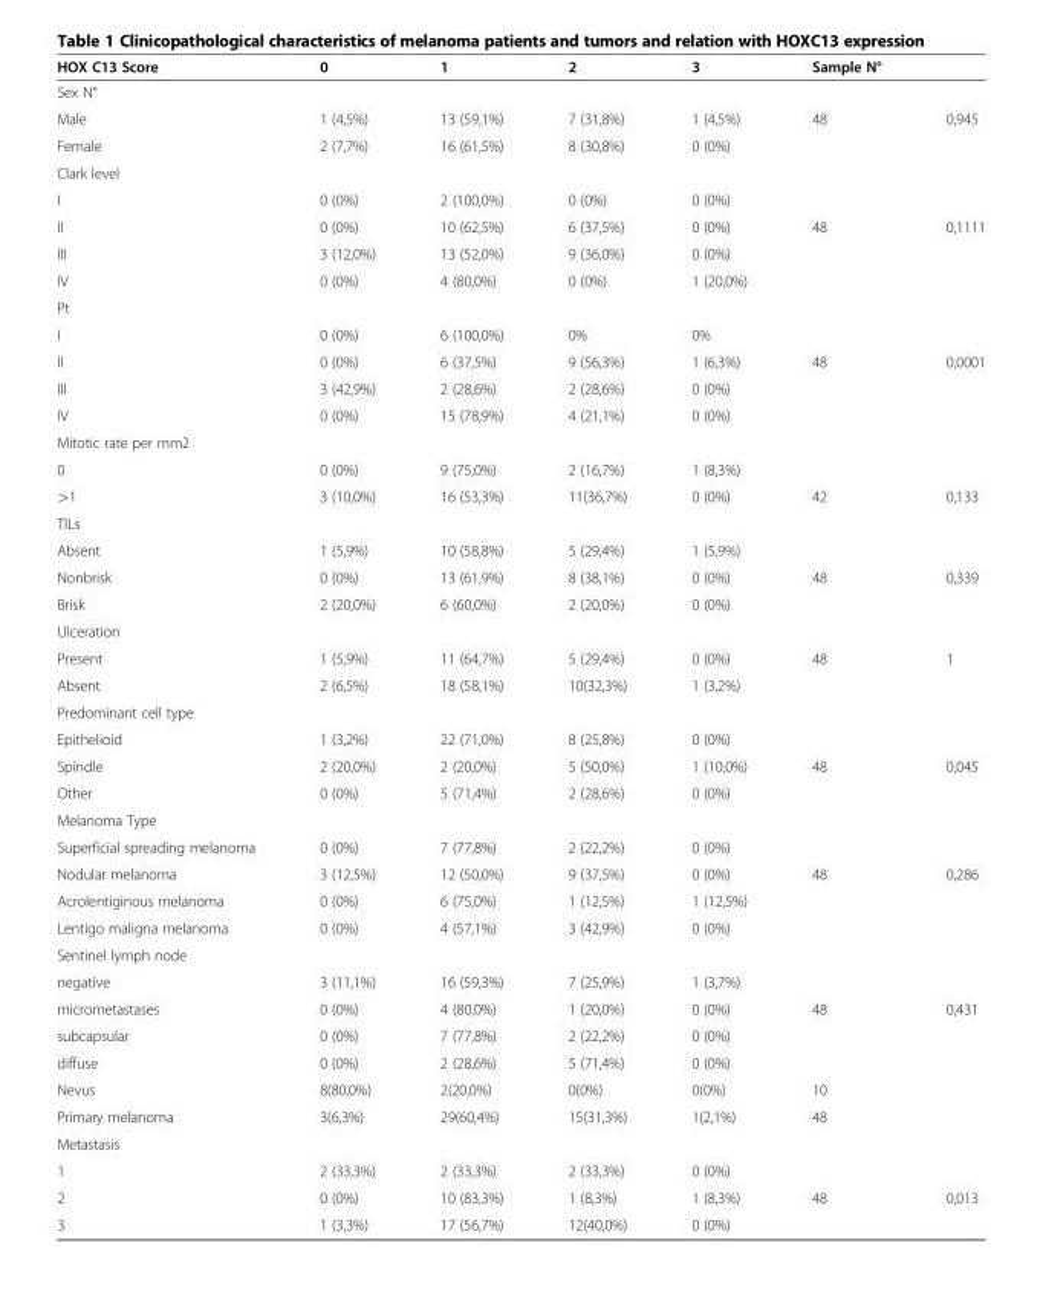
<table><thead><tr><td>HOX C13 Score</td><td>0</td><td>1</td><td>2</td><td>3</td><td>Sample N°</td><td></td></tr></thead><tbody><tr><td colspan="7">Sex N°</td></tr><tr><td>Male</td><td>1 (4,5%)</td><td>13 (59,1%)</td><td>7 (31,8%)</td><td>1 (4,5%)</td><td>48</td><td>0,945</td></tr><tr><td>Female</td><td>2 (7,7%)</td><td>16 (61,5%)</td><td>8 (30,8%)</td><td>0 (0%)</td><td></td><td></td></tr><tr><td colspan="7">Clark level</td></tr><tr><td>I</td><td>0 (0%)</td><td>2 (100,0%)</td><td>0 (0%)</td><td>0 (0%)</td><td></td><td></td></tr><tr><td>II</td><td>0 (0%)</td><td>10 (62,5%)</td><td>6 (37,5%)</td><td>0 (0%)</td><td>48</td><td>0,1111</td></tr><tr><td>III</td><td>3 (12,0%)</td><td>13 (52,0%)</td><td>9 (36,0%)</td><td>0 (0%)</td><td></td><td></td></tr><tr><td>IV</td><td>0 (0%)</td><td>4 (80,0%)</td><td>0 (0%)</td><td>1 (20,0%)</td><td></td><td></td></tr><tr><td colspan="7">Pt</td></tr><tr><td>I</td><td>0 (0%)</td><td>6 (100,0%)</td><td>0%</td><td>0%</td><td></td><td></td></tr><tr><td>II</td><td>0 (0%)</td><td>6 (37,5%)</td><td>9 (56,3%)</td><td>1 (6,3%)</td><td>48</td><td>0,0001</td></tr><tr><td>III</td><td>3 (42,9%)</td><td>2 (28,6%)</td><td>2 (28,6%)</td><td>0 (0%)</td><td></td><td></td></tr><tr><td>IV</td><td>0 (0%)</td><td>15 (78,9%)</td><td>4 (21,1%)</td><td>0 (0%)</td><td></td><td></td></tr><tr><td colspan="7">Mitotic rate per mm2</td></tr><tr><td>0</td><td>0 (0%)</td><td>9 (75,0%)</td><td>2 (16,7%)</td><td>1 (8,3%)</td><td></td><td></td></tr><tr><td>&gt;1</td><td>3 (10,0%)</td><td>16 (53,3%)</td><td>11(36,7%)</td><td>0 (0%)</td><td>42</td><td>0,133</td></tr><tr><td colspan="7">TILs</td></tr><tr><td>Absent</td><td>1 (5,9%)</td><td>10 (58,8%)</td><td>5 (29,4%)</td><td>1 (5,9%)</td><td></td><td></td></tr><tr><td>Nonbrisk</td><td>0 (0%)</td><td>13 (61,9%)</td><td>8 (38,1%)</td><td>0 (0%)</td><td>48</td><td>0,339</td></tr><tr><td>Brisk</td><td>2 (20,0%)</td><td>6 (60,0%)</td><td>2 (20,0%)</td><td>0 (0%)</td><td></td><td></td></tr><tr><td colspan="7">Ulceration</td></tr><tr><td>Present</td><td>1 (5,9%)</td><td>11 (64,7%)</td><td>5 (29,4%)</td><td>0 (0%)</td><td>48</td><td>1</td></tr><tr><td>Absent</td><td>2 (6,5%)</td><td>18 (58,1%)</td><td>10(32,3%)</td><td>1 (3,2%)</td><td></td><td></td></tr><tr><td colspan="7">Predominant cell type</td></tr><tr><td>Epithelioid</td><td>1 (3,2%)</td><td>22 (71,0%)</td><td>8 (25,8%)</td><td>0 (0%)</td><td></td><td></td></tr><tr><td>Spindle</td><td>2 (20,0%)</td><td>2 (20,0%)</td><td>5 (50,0%)</td><td>1 (10,0%)</td><td>48</td><td>0,045</td></tr><tr><td>Other</td><td>0 (0%)</td><td>5 (71,4%)</td><td>2 (28,6%)</td><td>0 (0%)</td><td></td><td></td></tr><tr><td colspan="7">Melanoma Type</td></tr><tr><td>Superficial spreading melanoma</td><td>0 (0%)</td><td>7 (77,8%)</td><td>2 (22,2%)</td><td>0 (0%)</td><td></td><td></td></tr><tr><td>Nodular melanoma</td><td>3 (12,5%)</td><td>12 (50,0%)</td><td>9 (37,5%)</td><td>0 (0%)</td><td>48</td><td>0,286</td></tr><tr><td>Acrolentiginous melanoma</td><td>0 (0%)</td><td>6 (75,0%)</td><td>1 (12,5%)</td><td>1 (12,5%)</td><td></td><td></td></tr><tr><td>Lentigo maligna melanoma</td><td>0 (0%)</td><td>4 (57,1%)</td><td>3 (42,9%)</td><td>0 (0%)</td><td></td><td></td></tr><tr><td colspan="7">Sentinel lymph node</td></tr><tr><td>negative</td><td>3 (11,1%)</td><td>16 (59,3%)</td><td>7 (25,9%)</td><td>1 (3,7%)</td><td></td><td></td></tr><tr><td>micrometastases</td><td>0 (0%)</td><td>4 (80,0%)</td><td>1 (20,0%)</td><td>0 (0%)</td><td>48</td><td>0,431</td></tr><tr><td>subcapsular</td><td>0 (0%)</td><td>7 (77,8%)</td><td>2 (22,2%)</td><td>0 (0%)</td><td></td><td></td></tr><tr><td>diffuse</td><td>0 (0%)</td><td>2 (28,6%)</td><td>5 (71,4%)</td><td>0 (0%)</td><td></td><td></td></tr><tr><td>Nevus</td><td>8(80,0%)</td><td>2(20,0%)</td><td>0(0%)</td><td>0(0%)</td><td>10</td><td></td></tr><tr><td>Primary melanoma</td><td>3(6,3%)</td><td>29(60,4%)</td><td>15(31,3%)</td><td>1(2,1%)</td><td>48</td><td></td></tr><tr><td colspan="7">Metastasis</td></tr><tr><td>1</td><td>2 (33,3%)</td><td>2 (33,3%)</td><td>2 (33,3%)</td><td>0 (0%)</td><td></td><td></td></tr><tr><td>2</td><td>0 (0%)</td><td>10 (83,3%)</td><td>1 (8,3%)</td><td>1 (8,3%)</td><td>48</td><td>0,013</td></tr><tr><td>3</td><td>1 (3,3%)</td><td>17 (56,7%)</td><td>12(40,0%)</td><td>0 (0%)</td><td></td><td></td></tr></tbody></table>